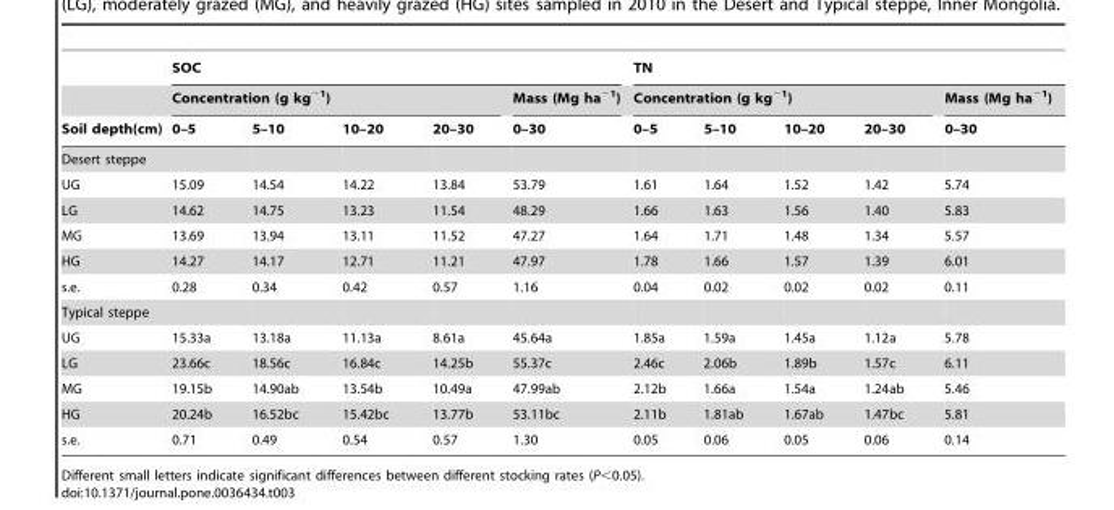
<table><thead><tr><td rowspan="3">Soil depth(cm)</td><td colspan="5">SOC</td><td colspan="5">TN</td></tr><tr><td colspan="4">Concentration (g kg<sup>−1</sup>)</td><td rowspan="2">Mass (Mg ha<sup>−1</sup>) 0–30</td><td colspan="4">Concentration (g kg<sup>−1</sup>)</td><td rowspan="2">Mass (Mg ha<sup>−1</sup>) 0–30</td></tr><tr><td>0–5</td><td>5–10</td><td>10–20</td><td>20–30</td><td>0–5</td><td>5–10</td><td>10–20</td><td>20–30</td></tr></thead><tbody><tr><td colspan="11">Desert steppe</td></tr><tr><td>UG</td><td>15.09</td><td>14.54</td><td>14.22</td><td>13.84</td><td>53.79</td><td>1.61</td><td>1.64</td><td>1.52</td><td>1.42</td><td>5.74</td></tr><tr><td>LG</td><td>14.62</td><td>14.75</td><td>13.23</td><td>11.54</td><td>48.29</td><td>1.66</td><td>1.63</td><td>1.56</td><td>1.40</td><td>5.83</td></tr><tr><td>MG</td><td>13.69</td><td>13.94</td><td>13.11</td><td>11.52</td><td>47.27</td><td>1.64</td><td>1.71</td><td>1.48</td><td>1.34</td><td>5.57</td></tr><tr><td>HG</td><td>14.27</td><td>14.17</td><td>12.71</td><td>11.21</td><td>47.97</td><td>1.78</td><td>1.66</td><td>1.57</td><td>1.39</td><td>6.01</td></tr><tr><td>s.e.</td><td>0.28</td><td>0.34</td><td>0.42</td><td>0.57</td><td>1.16</td><td>0.04</td><td>0.02</td><td>0.02</td><td>0.02</td><td>0.11</td></tr><tr><td colspan="11">Typical steppe</td></tr><tr><td>UG</td><td>15.33a</td><td>13.18a</td><td>11.13a</td><td>8.61a</td><td>45.64a</td><td>1.85a</td><td>1.59a</td><td>1.45a</td><td>1.12a</td><td>5.78</td></tr><tr><td>LG</td><td>23.66c</td><td>18.56c</td><td>16.84c</td><td>14.25b</td><td>55.37c</td><td>2.46c</td><td>2.06b</td><td>1.89b</td><td>1.57c</td><td>6.11</td></tr><tr><td>MG</td><td>19.15b</td><td>14.90ab</td><td>13.54b</td><td>10.49a</td><td>47.99ab</td><td>2.12b</td><td>1.66a</td><td>1.54a</td><td>1.24ab</td><td>5.46</td></tr><tr><td>HG</td><td>20.24b</td><td>16.52bc</td><td>15.42bc</td><td>13.77b</td><td>53.11bc</td><td>2.11b</td><td>1.81ab</td><td>1.67ab</td><td>1.47bc</td><td>5.81</td></tr><tr><td>s.e.</td><td>0.71</td><td>0.49</td><td>0.54</td><td>0.57</td><td>1.30</td><td>0.05</td><td>0.06</td><td>0.05</td><td>0.06</td><td>0.14</td></tr></tbody></table>